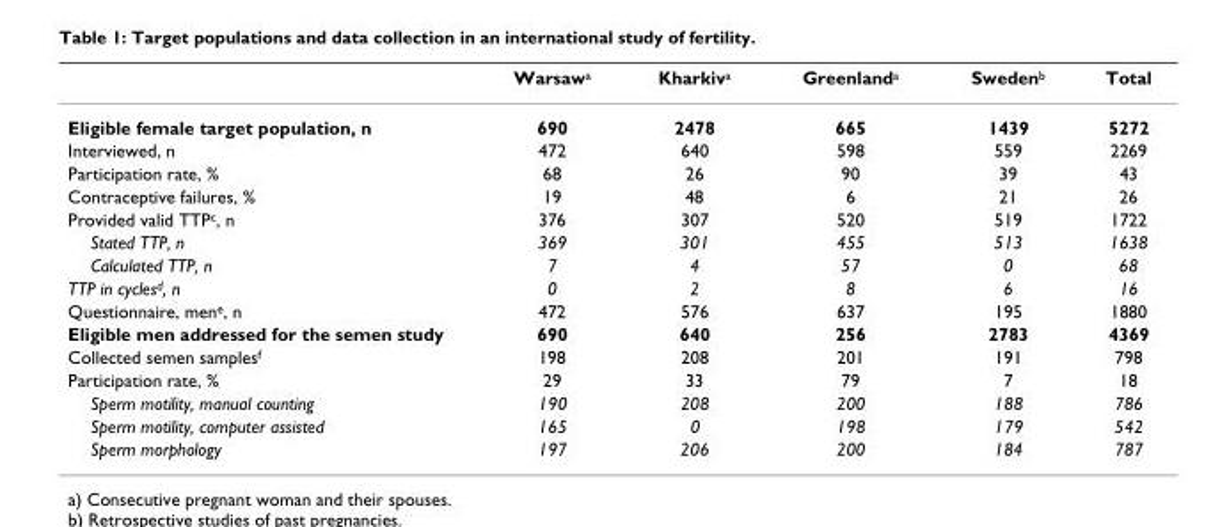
<table><thead><tr><td></td><td>Warsaw<sup>a</sup></td><td>Kharkiv<sup>a</sup></td><td>Greenland<sup>a</sup></td><td>Sweden<sup>b</sup></td><td>Total</td></tr></thead><tbody><tr><td>Eligible female target population, n</td><td>690</td><td>2478</td><td>665</td><td>1439</td><td>5272</td></tr><tr><td>Interviewed, n</td><td>472</td><td>640</td><td>598</td><td>559</td><td>2269</td></tr><tr><td>Participation rate, %</td><td>68</td><td>26</td><td>90</td><td>39</td><td>43</td></tr><tr><td>Contraceptive failures, %</td><td>19</td><td>48</td><td>6</td><td>21</td><td>26</td></tr><tr><td>Provided valid TTP<sup>c</sup>, n</td><td>376</td><td>307</td><td>520</td><td>519</td><td>1722</td></tr><tr><td>Stated TTP, n</td><td>369</td><td>301</td><td>455</td><td>513</td><td>1638</td></tr><tr><td>Calculated TTP, n</td><td>7</td><td>4</td><td>57</td><td>0</td><td>68</td></tr><tr><td>TTP in cycles<sup>d</sup>, n</td><td>0</td><td>2</td><td>8</td><td>6</td><td>16</td></tr><tr><td>Questionnaire, men<sup>e</sup>, n</td><td>472</td><td>576</td><td>637</td><td>195</td><td>1880</td></tr><tr><td>Eligible men addressed for the semen study</td><td>690</td><td>640</td><td>256</td><td>2783</td><td>4369</td></tr><tr><td>Collected semen samples<sup>f</sup></td><td>198</td><td>208</td><td>201</td><td>191</td><td>798</td></tr><tr><td>Participation rate, %</td><td>29</td><td>33</td><td>79</td><td>7</td><td>18</td></tr><tr><td>Sperm motility, manual counting</td><td>190</td><td>208</td><td>200</td><td>188</td><td>786</td></tr><tr><td>Sperm motility, computer assisted</td><td>165</td><td>0</td><td>198</td><td>179</td><td>542</td></tr><tr><td>Sperm morphology</td><td>197</td><td>206</td><td>200</td><td>184</td><td>787</td></tr></tbody></table>